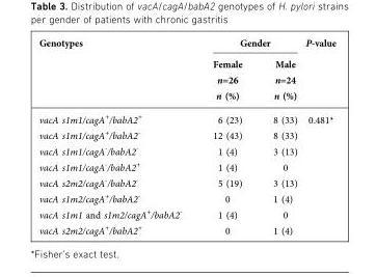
<table><thead><tr><td rowspan="4">Genotypes</td><td colspan="2">Gender</td><td rowspan="4">P-value</td></tr><tr><td rowspan="3">Female n=26 n (%)</td><td rowspan="3">Male n=24 n (%)</td></tr><tr></tr><tr></tr></thead><tbody><tr><td>vacA s1m1/cagA<sup>+</sup>/babA2<sup>+</sup></td><td>6 (23)</td><td>8 (33)</td><td rowspan="8">0.481*</td></tr><tr><td>vacA s1m1/cagA<sup>+</sup>/babA2<sup>-</sup></td><td>12 (43)</td><td>8 (33)</td></tr><tr><td>vacA s1m1/cagA<sup>-</sup>/babA2<sup>-</sup></td><td>1 (4)</td><td>3 (13)</td></tr><tr><td>vacA s1m1/cagA<sup>-</sup>/babA2<sup>+</sup></td><td>1 (4)</td><td>0</td></tr><tr><td>vacA s2m2/cagA<sup>-</sup>/babA2<sup>-</sup></td><td>5 (19)</td><td>3 (13)</td></tr><tr><td>vacA s1m2/cagA<sup>+</sup>/babA2<sup>-</sup></td><td>0</td><td>1 (4)</td></tr><tr><td>vacA s1m1 and s1m2/cagA<sup>+</sup>/babA2<sup>-</sup></td><td>1 (4)</td><td>0</td></tr><tr><td>vacA s2m2/cagA<sup>+</sup>/babA2<sup>+</sup></td><td>0</td><td>1 (4)</td></tr></tbody></table>